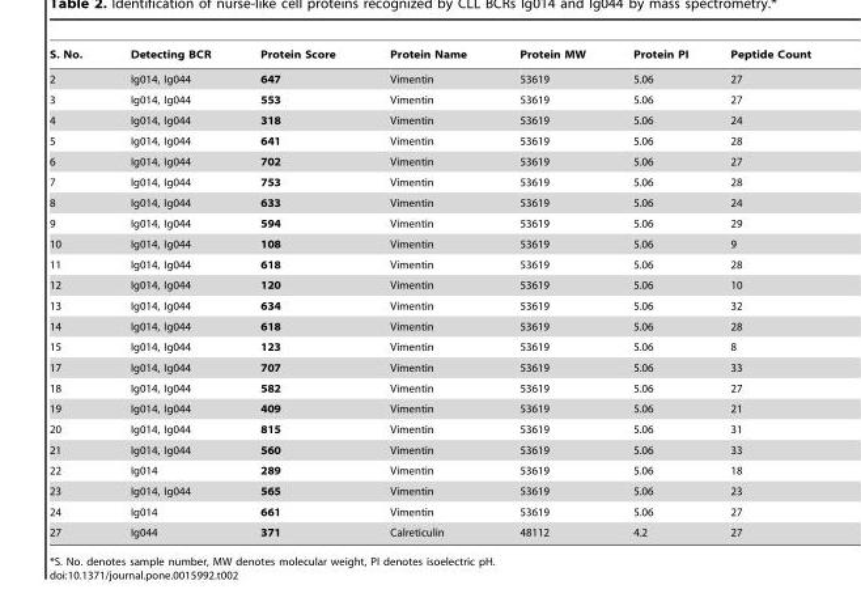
<table><thead><tr><td>S. No.</td><td>Detecting BCR</td><td>Protein Score</td><td>Protein Name</td><td>Protein MW</td><td>Protein PI</td><td>Peptide Count</td></tr></thead><tbody><tr><td>2</td><td>Ig014, Ig044</td><td>647</td><td>Vimentin</td><td>53619</td><td>5.06</td><td>27</td></tr><tr><td>3</td><td>Ig014, Ig044</td><td>553</td><td>Vimentin</td><td>53619</td><td>5.06</td><td>27</td></tr><tr><td>4</td><td>Ig014, Ig044</td><td>318</td><td>Vimentin</td><td>53619</td><td>5.06</td><td>24</td></tr><tr><td>5</td><td>Ig014, Ig044</td><td>641</td><td>Vimentin</td><td>53619</td><td>5.06</td><td>28</td></tr><tr><td>6</td><td>Ig014, Ig044</td><td>702</td><td>Vimentin</td><td>53619</td><td>5.06</td><td>27</td></tr><tr><td>7</td><td>Ig014, Ig044</td><td>753</td><td>Vimentin</td><td>53619</td><td>5.06</td><td>28</td></tr><tr><td>8</td><td>Ig014, Ig044</td><td>633</td><td>Vimentin</td><td>53619</td><td>5.06</td><td>24</td></tr><tr><td>9</td><td>Ig014, Ig044</td><td>594</td><td>Vimentin</td><td>53619</td><td>5.06</td><td>29</td></tr><tr><td>10</td><td>Ig014, Ig044</td><td>108</td><td>Vimentin</td><td>53619</td><td>5.06</td><td>9</td></tr><tr><td>11</td><td>Ig014, Ig044</td><td>618</td><td>Vimentin</td><td>53619</td><td>5.06</td><td>28</td></tr><tr><td>12</td><td>Ig014, Ig044</td><td>120</td><td>Vimentin</td><td>53619</td><td>5.06</td><td>10</td></tr><tr><td>13</td><td>Ig014, Ig044</td><td>634</td><td>Vimentin</td><td>53619</td><td>5.06</td><td>32</td></tr><tr><td>14</td><td>Ig014, Ig044</td><td>618</td><td>Vimentin</td><td>53619</td><td>5.06</td><td>28</td></tr><tr><td>15</td><td>Ig014, Ig044</td><td>123</td><td>Vimentin</td><td>53619</td><td>5.06</td><td>8</td></tr><tr><td>17</td><td>Ig014, Ig044</td><td>707</td><td>Vimentin</td><td>53619</td><td>5.06</td><td>33</td></tr><tr><td>18</td><td>Ig014, Ig044</td><td>582</td><td>Vimentin</td><td>53619</td><td>5.06</td><td>27</td></tr><tr><td>19</td><td>Ig014, Ig044</td><td>409</td><td>Vimentin</td><td>53619</td><td>5.06</td><td>21</td></tr><tr><td>20</td><td>Ig014, Ig044</td><td>815</td><td>Vimentin</td><td>53619</td><td>5.06</td><td>31</td></tr><tr><td>21</td><td>Ig014, Ig044</td><td>560</td><td>Vimentin</td><td>53619</td><td>5.06</td><td>33</td></tr><tr><td>22</td><td>Ig014</td><td>289</td><td>Vimentin</td><td>53619</td><td>5.06</td><td>18</td></tr><tr><td>23</td><td>Ig014, Ig044</td><td>565</td><td>Vimentin</td><td>53619</td><td>5.06</td><td>23</td></tr><tr><td>24</td><td>Ig014</td><td>661</td><td>Vimentin</td><td>53619</td><td>5.06</td><td>27</td></tr><tr><td>27</td><td>Ig044</td><td>371</td><td>Calreticulin</td><td>48112</td><td>4.2</td><td>27</td></tr></tbody></table>